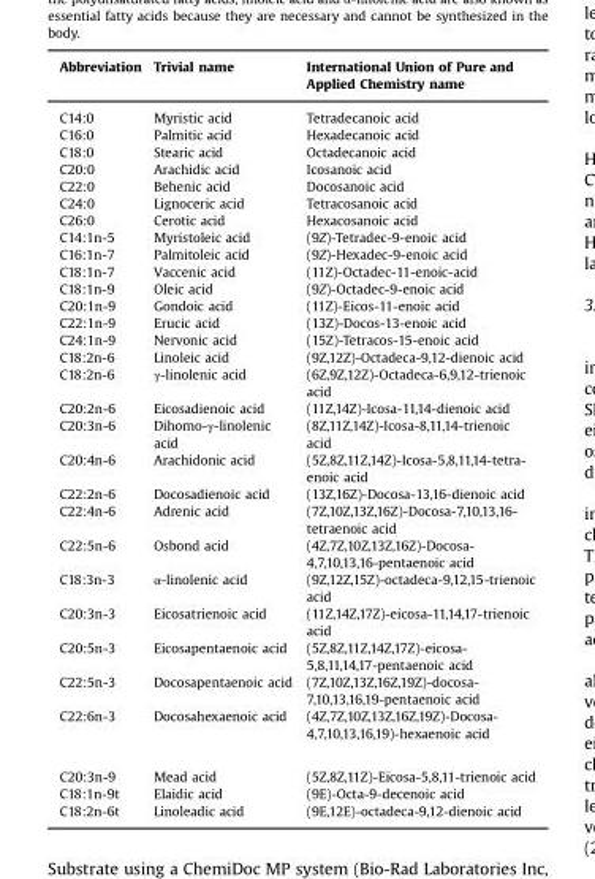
<table><thead><tr><td>Abbreviation</td><td>Trivial name</td><td>International Union of Pure and Applied Chemistry name</td></tr></thead><tbody><tr><td>C14:0</td><td>Myristic acid</td><td>Tetradecanoic acid</td></tr><tr><td>C16:0</td><td>Palmitic acid</td><td>Hexadecanoic acid</td></tr><tr><td>C18:0</td><td>Stearic acid</td><td>Octadecanoic acid</td></tr><tr><td>C20:0</td><td>Arachidic acid</td><td>Icosanoic acid</td></tr><tr><td>C22:0</td><td>Behenic acid</td><td>Docosanoic acid</td></tr><tr><td>C24:0</td><td>Lignoceric acid</td><td>Tetracosanoic acid</td></tr><tr><td>C26:0</td><td>Cerotic acid</td><td>Hexacosanoic acid</td></tr><tr><td>C14:1n-5</td><td>Myristoleic acid</td><td>(9Z)-Tetradec-9-enoic acid</td></tr><tr><td>C16:1n-7</td><td>Palmitoleic acid</td><td>(9Z)-Hexadec-9-enoic acid</td></tr><tr><td>C18:1n-7</td><td>Vaccenic acid</td><td>(11Z)-Octadec-11-enoic-acid</td></tr><tr><td>C18:1n-9</td><td>Oleic acid</td><td>(9Z)-Octadec-9-enoic acid</td></tr><tr><td>C20:1n-9</td><td>Gondoic acid</td><td>(11Z)-Eicos-11-enoic acid</td></tr><tr><td>C22:1n-9</td><td>Erucic acid</td><td>(13Z)-Docos-13-enoic acid</td></tr><tr><td>C24:1n-9</td><td>Nervonic acid</td><td>(15Z)-Tetracos-15-enoic acid</td></tr><tr><td>C18:2n-6</td><td>Linoleic acid</td><td>(9Z,12Z)-Octadeca-9,12-dienoic acid</td></tr><tr><td>C18:2n-6</td><td>γ-linolenic acid</td><td>(6Z,9Z,12Z)-Octadeca-6,9,12-trienoic acid</td></tr><tr><td>C20:2n-6</td><td>Eicosadienoic acid</td><td>(11Z,14Z)-Icosa-11,14-dienoic acid</td></tr><tr><td>C20:3n-6</td><td>Dihomo-γ-linolenic acid</td><td>(8Z,11Z,14Z)-Icosa-8,11,14-trienoic acid</td></tr><tr><td>C20:4n-6</td><td>Arachidonic acid</td><td>(5Z,8Z,11Z,14Z)-Icosa-5,8,11,14-tetra- enoic acid</td></tr><tr><td>C22:2n-6</td><td>Docosadienoic acid</td><td>(13Z,16Z)-Docosa-13,16-dienoic acid</td></tr><tr><td>C22:4n-6</td><td>Adrenic acid</td><td>(7Z,10Z,13Z,16Z)-Docosa-7,10,13,16- tetraenoic acid</td></tr><tr><td>C22:5n-6</td><td>Osbond acid</td><td>(4Z,7Z,10Z,13Z,16Z)-Docosa- 4,7,10,13,16-pentaenoic acid</td></tr><tr><td>C18:3n-3</td><td>α-linolenic acid</td><td>(9Z,12Z,15Z)-octadeca-9,12,15-trienoic acid</td></tr><tr><td>C20:3n-3</td><td>Eicosatrienoic acid</td><td>(11Z,14Z,17Z)-eicosa-11,14,17-trienoic acid</td></tr><tr><td>C20:5n-3</td><td>Eicosapentaenoic acid</td><td>(5Z,8Z,11Z,14Z,17Z)-eicosa- 5,8,11,14,17-pentaenoic acid</td></tr><tr><td>C22:5n-3</td><td>Docosapentaenoic acid</td><td>(7Z,10Z,13Z,16Z,19Z)-docosa- 7,10,13,16,19-pentaenoic acid</td></tr><tr><td>C22:6n-3</td><td>Docosahexaenoic acid</td><td>(4Z,7Z,10Z,13Z,16Z,19Z)-Docosa- 4,7,10,13,16,19)-hexaenoic acid</td></tr><tr><td>C20:3n-9</td><td>Mead acid</td><td>(5Z,8Z,11Z)-Eicosa-5,8,11-trienoic acid</td></tr><tr><td>C18:1n-9t</td><td>Elaidic acid</td><td>(9E)-Octa-9-decenoic acid</td></tr><tr><td>C18:2n-6t</td><td>Linoleadic acid</td><td>(9E,12E)-octadeca-9,12-dienoic acid</td></tr></tbody></table>